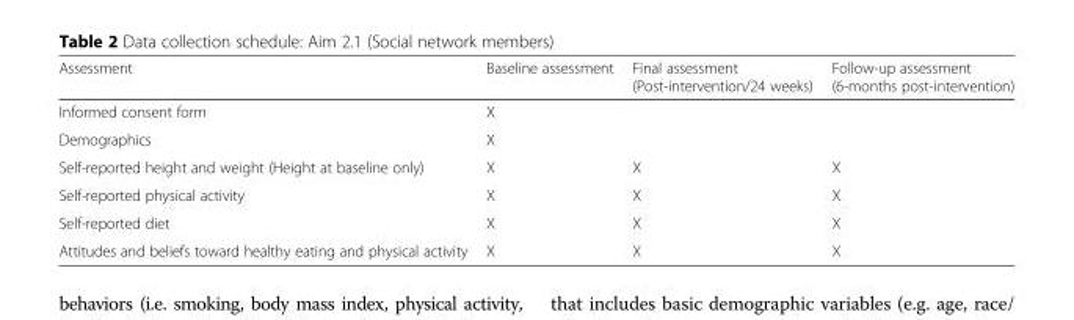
<table><thead><tr><td>Assessment</td><td>Baseline assessment</td><td>Final assessment (Post-intervention/24 weeks)</td><td>Follow-up assessment (6-months post-intervention)</td></tr></thead><tbody><tr><td>Informed consent form</td><td>X</td><td></td><td></td></tr><tr><td>Demographics</td><td>X</td><td></td><td></td></tr><tr><td>Self-reported height and weight (Height at baseline only)</td><td>X</td><td>X</td><td>X</td></tr><tr><td>Self-reported physical activity</td><td>X</td><td>X</td><td>X</td></tr><tr><td>Self-reported diet</td><td>X</td><td>X</td><td>X</td></tr><tr><td>Attitudes and beliefs toward healthy eating and physical activity</td><td>X</td><td>X</td><td>X</td></tr></tbody></table>